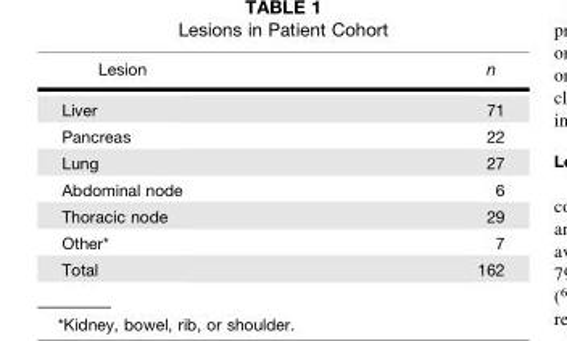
<table><thead><tr><td>Lesion</td><td>n</td></tr></thead><tbody><tr><td>Liver</td><td>71</td></tr><tr><td>Pancreas</td><td>22</td></tr><tr><td>Lung</td><td>27</td></tr><tr><td>Abdominal node</td><td>6</td></tr><tr><td>Thoracic node</td><td>29</td></tr><tr><td>Other*</td><td>7</td></tr><tr><td>Total</td><td>162</td></tr></tbody></table>